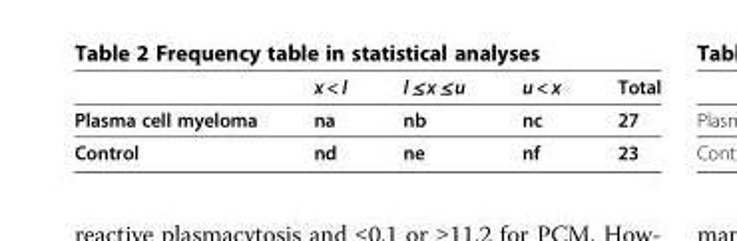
<table><thead><tr><td></td><td>x &lt; l</td><td>l ≤ x ≤ u</td><td>u &lt; x</td><td>Total</td></tr></thead><tbody><tr><td>Plasma cell myeloma</td><td>na</td><td>nb</td><td>nc</td><td>27</td></tr><tr><td>Control</td><td>nd</td><td>ne</td><td>nf</td><td>23</td></tr></tbody></table>